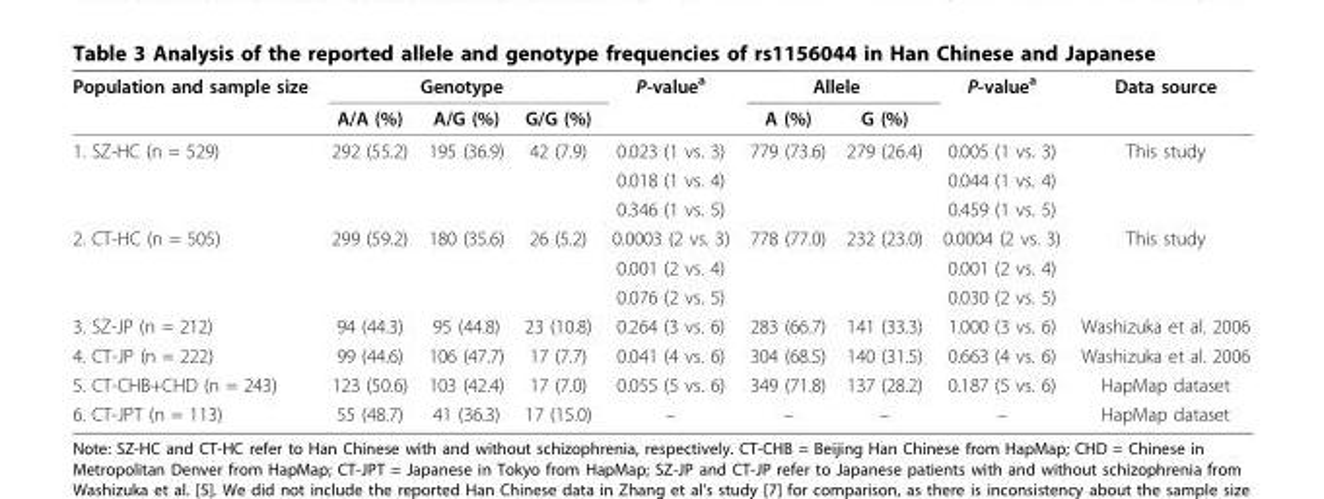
<table><thead><tr><td rowspan="2">Population and sample size</td><td colspan="3">Genotype</td><td rowspan="2">P-value<sup>a</sup></td><td colspan="2">Allele</td><td rowspan="2">P-value<sup>a</sup></td><td rowspan="2">Data source</td></tr><tr><td>A/A (%)</td><td>A/G (%)</td><td>G/G (%)</td><td>A (%)</td><td>G (%)</td></tr></thead><tbody><tr><td rowspan="3">1. SZ-HC (n = 529)</td><td>292 (55.2)</td><td>195 (36.9)</td><td>42 (7.9)</td><td>0.023 (1 vs. 3)</td><td>779 (73.6)</td><td>279 (26.4)</td><td>0.005 (1 vs. 3)</td><td>This study</td></tr><tr><td></td><td></td><td></td><td>0.018 (1 vs. 4)</td><td></td><td></td><td>0.044 (1 vs. 4)</td><td></td></tr><tr><td></td><td></td><td></td><td>0.346 (1 vs. 5)</td><td></td><td></td><td>0.459 (1 vs. 5)</td><td></td></tr><tr><td rowspan="3">2. CT-HC (n = 505)</td><td>299 (59.2)</td><td>180 (35.6)</td><td>26 (5.2)</td><td>0.0003 (2 vs. 3)</td><td>778 (77.0)</td><td>232 (23.0)</td><td>0.0004 (2 vs. 3)</td><td>This study</td></tr><tr><td></td><td></td><td></td><td>0.001 (2 vs. 4)</td><td></td><td></td><td>0.001 (2 vs. 4)</td><td></td></tr><tr><td></td><td></td><td></td><td>0.076 (2 vs. 5)</td><td></td><td></td><td>0.030 (2 vs. 5)</td><td></td></tr><tr><td>3. SZ-JP (n = 212)</td><td>94 (44.3)</td><td>95 (44.8)</td><td>23 (10.8)</td><td>0.264 (3 vs. 6)</td><td>283 (66.7)</td><td>141 (33.3)</td><td>1.000 (3 vs. 6)</td><td>Washizuka et al. 2006</td></tr><tr><td>4. CT-JP (n = 222)</td><td>99 (44.6)</td><td>106 (47.7)</td><td>17 (7.7)</td><td>0.041 (4 vs. 6)</td><td>304 (68.5)</td><td>140 (31.5)</td><td>0.663 (4 vs. 6)</td><td>Washizuka et al. 2006</td></tr><tr><td>5. CT-CHB+CHD (n = 243)</td><td>123 (50.6)</td><td>103 (42.4)</td><td>17 (7.0)</td><td>0.055 (5 vs. 6)</td><td>349 (71.8)</td><td>137 (28.2)</td><td>0.187 (5 vs. 6)</td><td>HapMap dataset</td></tr><tr><td>6. CT-JPT (n = 113)</td><td>55 (48.7)</td><td>41 (36.3)</td><td>17 (15.0)</td><td>–</td><td>–</td><td>–</td><td>–</td><td>HapMap dataset</td></tr></tbody></table>